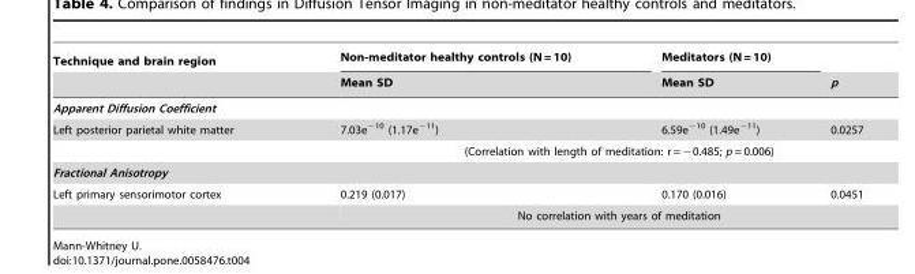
<table><thead><tr><td rowspan="2">Technique and brain region</td><td rowspan="2">Non-meditator healthy controls (N = 10) Mean SD</td><td rowspan="2">Meditators (N = 10) Mean SD</td><td rowspan="2">p</td></tr><tr></tr></thead><tbody><tr><td colspan="4">Apparent Diffusion Coefficient</td></tr><tr><td rowspan="2">Left posterior parietal white matter</td><td>7.03e<sup>−10</sup> (1.17e<sup>−11</sup>)</td><td>6.59e<sup>−10</sup> (1.49e<sup>−11</sup>)</td><td>0.0257</td></tr><tr><td colspan="3">(Correlation with length of meditation: r = −0.485; p = 0.006)</td></tr><tr><td colspan="4">Fractional Anisotropy</td></tr><tr><td rowspan="2">Left primary sensorimotor cortex</td><td>0.219 (0.017)</td><td>0.170 (0.016)</td><td>0.0451</td></tr><tr><td colspan="3">No correlation with years of meditation</td></tr></tbody></table>